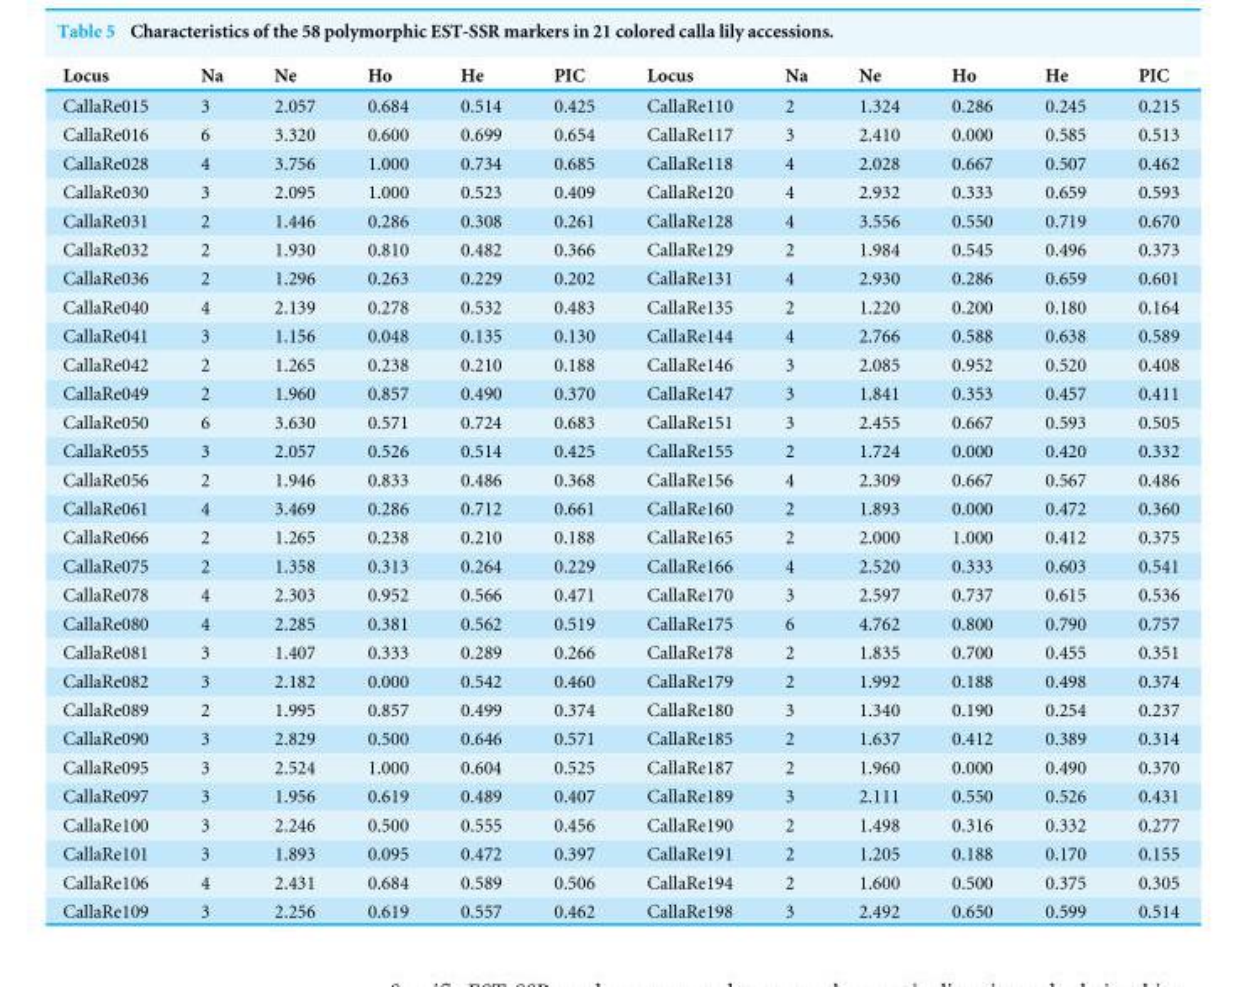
<table><thead><tr><td>Locus</td><td>Na</td><td>Ne</td><td>Ho</td><td>He</td><td>PIC</td><td>Locus</td><td>Na</td><td>Ne</td><td>Ho</td><td>He</td><td>PIC</td></tr></thead><tbody><tr><td>CallaRe015</td><td>3</td><td>2.057</td><td>0.684</td><td>0.514</td><td>0.425</td><td>CallaRe110</td><td>2</td><td>1.324</td><td>0.286</td><td>0.245</td><td>0.215</td></tr><tr><td>CallaRe016</td><td>6</td><td>3.320</td><td>0.600</td><td>0.699</td><td>0.654</td><td>CallaRe117</td><td>3</td><td>2.410</td><td>0.000</td><td>0.585</td><td>0.513</td></tr><tr><td>CallaRe028</td><td>4</td><td>3.756</td><td>1.000</td><td>0.734</td><td>0.685</td><td>CallaRe118</td><td>4</td><td>2.028</td><td>0.667</td><td>0.507</td><td>0.462</td></tr><tr><td>CallaRe030</td><td>3</td><td>2.095</td><td>1.000</td><td>0.523</td><td>0.409</td><td>CallaRe120</td><td>4</td><td>2.932</td><td>0.333</td><td>0.659</td><td>0.593</td></tr><tr><td>CallaRe031</td><td>2</td><td>1.446</td><td>0.286</td><td>0.308</td><td>0.261</td><td>CallaRe128</td><td>4</td><td>3.556</td><td>0.550</td><td>0.719</td><td>0.670</td></tr><tr><td>CallaRe032</td><td>2</td><td>1.930</td><td>0.810</td><td>0.482</td><td>0.366</td><td>CallaRe129</td><td>2</td><td>1.984</td><td>0.545</td><td>0.496</td><td>0.373</td></tr><tr><td>CallaRe036</td><td>2</td><td>1.296</td><td>0.263</td><td>0.229</td><td>0.202</td><td>CallaRe131</td><td>4</td><td>2.930</td><td>0.286</td><td>0.659</td><td>0.601</td></tr><tr><td>CallaRe040</td><td>4</td><td>2.139</td><td>0.278</td><td>0.532</td><td>0.483</td><td>CallaRe135</td><td>2</td><td>1.220</td><td>0.200</td><td>0.180</td><td>0.164</td></tr><tr><td>CallaRe041</td><td>3</td><td>1.156</td><td>0.048</td><td>0.135</td><td>0.130</td><td>CallaRe144</td><td>4</td><td>2.766</td><td>0.588</td><td>0.638</td><td>0.589</td></tr><tr><td>CallaRe042</td><td>2</td><td>1.265</td><td>0.238</td><td>0.210</td><td>0.188</td><td>CallaRe146</td><td>3</td><td>2.085</td><td>0.952</td><td>0.520</td><td>0.408</td></tr><tr><td>CallaRe049</td><td>2</td><td>1.960</td><td>0.857</td><td>0.490</td><td>0.370</td><td>CallaRe147</td><td>3</td><td>1.841</td><td>0.353</td><td>0.457</td><td>0.411</td></tr><tr><td>CallaRe050</td><td>6</td><td>3.630</td><td>0.571</td><td>0.724</td><td>0.683</td><td>CallaRe151</td><td>3</td><td>2.455</td><td>0.667</td><td>0.593</td><td>0.505</td></tr><tr><td>CallaRe055</td><td>3</td><td>2.057</td><td>0.526</td><td>0.514</td><td>0.425</td><td>CallaRe155</td><td>2</td><td>1.724</td><td>0.000</td><td>0.420</td><td>0.332</td></tr><tr><td>CallaRe056</td><td>2</td><td>1.946</td><td>0.833</td><td>0.486</td><td>0.368</td><td>CallaRe156</td><td>4</td><td>2.309</td><td>0.667</td><td>0.567</td><td>0.486</td></tr><tr><td>CallaRe061</td><td>4</td><td>3.469</td><td>0.286</td><td>0.712</td><td>0.661</td><td>CallaRe160</td><td>2</td><td>1.893</td><td>0.000</td><td>0.472</td><td>0.360</td></tr><tr><td>CallaRe066</td><td>2</td><td>1.265</td><td>0.238</td><td>0.210</td><td>0.188</td><td>CallaRe165</td><td>2</td><td>2.000</td><td>1.000</td><td>0.412</td><td>0.375</td></tr><tr><td>CallaRe075</td><td>2</td><td>1.358</td><td>0.313</td><td>0.264</td><td>0.229</td><td>CallaRe166</td><td>4</td><td>2.520</td><td>0.333</td><td>0.603</td><td>0.541</td></tr><tr><td>CallaRe078</td><td>4</td><td>2.303</td><td>0.952</td><td>0.566</td><td>0.471</td><td>CallaRe170</td><td>3</td><td>2.597</td><td>0.737</td><td>0.615</td><td>0.536</td></tr><tr><td>CallaRe080</td><td>4</td><td>2.285</td><td>0.381</td><td>0.562</td><td>0.519</td><td>CallaRe175</td><td>6</td><td>4.762</td><td>0.800</td><td>0.790</td><td>0.757</td></tr><tr><td>CallaRe081</td><td>3</td><td>1.407</td><td>0.333</td><td>0.289</td><td>0.266</td><td>CallaRe178</td><td>2</td><td>1.835</td><td>0.700</td><td>0.455</td><td>0.351</td></tr><tr><td>CallaRe082</td><td>3</td><td>2.182</td><td>0.000</td><td>0.542</td><td>0.460</td><td>CallaRe179</td><td>2</td><td>1.992</td><td>0.188</td><td>0.498</td><td>0.374</td></tr><tr><td>CallaRe089</td><td>2</td><td>1.995</td><td>0.857</td><td>0.499</td><td>0.374</td><td>CallaRe180</td><td>3</td><td>1.340</td><td>0.190</td><td>0.254</td><td>0.237</td></tr><tr><td>CallaRe090</td><td>3</td><td>2.829</td><td>0.500</td><td>0.646</td><td>0.571</td><td>CallaRe185</td><td>2</td><td>1.637</td><td>0.412</td><td>0.389</td><td>0.314</td></tr><tr><td>CallaRe095</td><td>3</td><td>2.524</td><td>1.000</td><td>0.604</td><td>0.525</td><td>CallaRe187</td><td>2</td><td>1.960</td><td>0.000</td><td>0.490</td><td>0.370</td></tr><tr><td>CallaRe097</td><td>3</td><td>1.956</td><td>0.619</td><td>0.489</td><td>0.407</td><td>CallaRe189</td><td>3</td><td>2.111</td><td>0.550</td><td>0.526</td><td>0.431</td></tr><tr><td>CallaRe100</td><td>3</td><td>2.246</td><td>0.500</td><td>0.555</td><td>0.456</td><td>CallaRe190</td><td>2</td><td>1.498</td><td>0.316</td><td>0.332</td><td>0.277</td></tr><tr><td>CallaRe101</td><td>3</td><td>1.893</td><td>0.095</td><td>0.472</td><td>0.397</td><td>CallaRe191</td><td>2</td><td>1.205</td><td>0.188</td><td>0.170</td><td>0.155</td></tr><tr><td>CallaRe106</td><td>4</td><td>2.431</td><td>0.684</td><td>0.589</td><td>0.506</td><td>CallaRe194</td><td>2</td><td>1.600</td><td>0.500</td><td>0.375</td><td>0.305</td></tr><tr><td>CallaRe109</td><td>3</td><td>2.256</td><td>0.619</td><td>0.557</td><td>0.462</td><td>CallaRe198</td><td>3</td><td>2.492</td><td>0.650</td><td>0.599</td><td>0.514</td></tr></tbody></table>